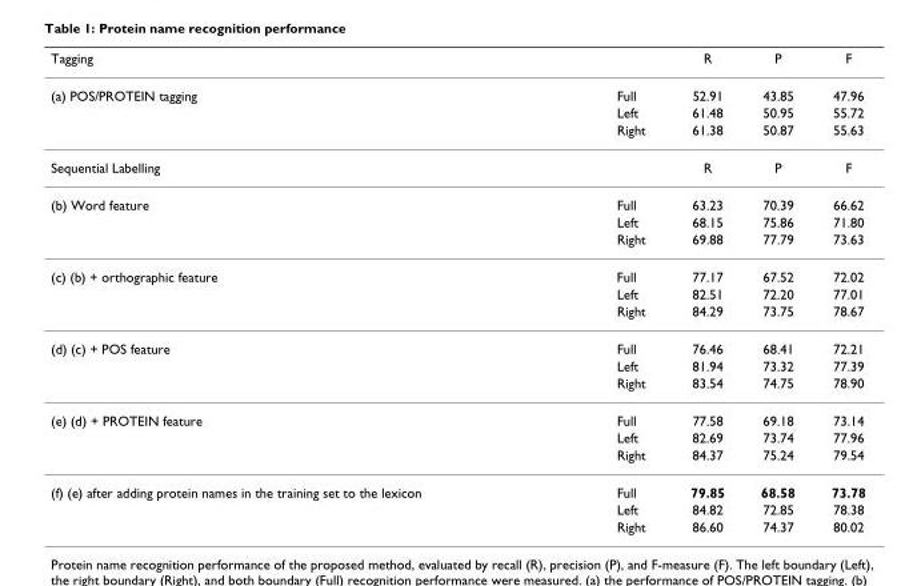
<table><thead><tr><td>Tagging</td><td></td><td>R</td><td>P</td><td>F</td></tr></thead><tbody><tr><td rowspan="3">(a) POS/PROTEIN tagging</td><td>Full</td><td>52.91</td><td>43.85</td><td>47.96</td></tr><tr><td>Left</td><td>61.48</td><td>50.95</td><td>55.72</td></tr><tr><td>Right</td><td>61.38</td><td>50.87</td><td>55.63</td></tr><tr><td>Sequential Labelling</td><td></td><td>R</td><td>P</td><td>F</td></tr><tr><td rowspan="3">(b) Word feature</td><td>Full</td><td>63.23</td><td>70.39</td><td>66.62</td></tr><tr><td>Left</td><td>68.15</td><td>75.86</td><td>71.80</td></tr><tr><td>Right</td><td>69.88</td><td>77.79</td><td>73.63</td></tr><tr><td rowspan="3">(c) (b) + orthographic feature</td><td>Full</td><td>77.17</td><td>67.52</td><td>72.02</td></tr><tr><td>Left</td><td>82.51</td><td>72.20</td><td>77.01</td></tr><tr><td>Right</td><td>84.29</td><td>73.75</td><td>78.67</td></tr><tr><td rowspan="3">(d) (c) + POS feature</td><td>Full</td><td>76.46</td><td>68.41</td><td>72.21</td></tr><tr><td>Left</td><td>81.94</td><td>73.32</td><td>77.39</td></tr><tr><td>Right</td><td>83.54</td><td>74.75</td><td>78.90</td></tr><tr><td rowspan="3">(e) (d) + PROTEIN feature</td><td>Full</td><td>77.58</td><td>69.18</td><td>73.14</td></tr><tr><td>Left</td><td>82.69</td><td>73.74</td><td>77.96</td></tr><tr><td>Right</td><td>84.37</td><td>75.24</td><td>79.54</td></tr><tr><td rowspan="3">(f) (e) after adding protein names in the training set to the lexicon</td><td>Full</td><td>79.85</td><td>68.58</td><td>73.78</td></tr><tr><td>Left</td><td>84.82</td><td>72.85</td><td>78.38</td></tr><tr><td>Right</td><td>86.60</td><td>74.37</td><td>80.02</td></tr></tbody></table>